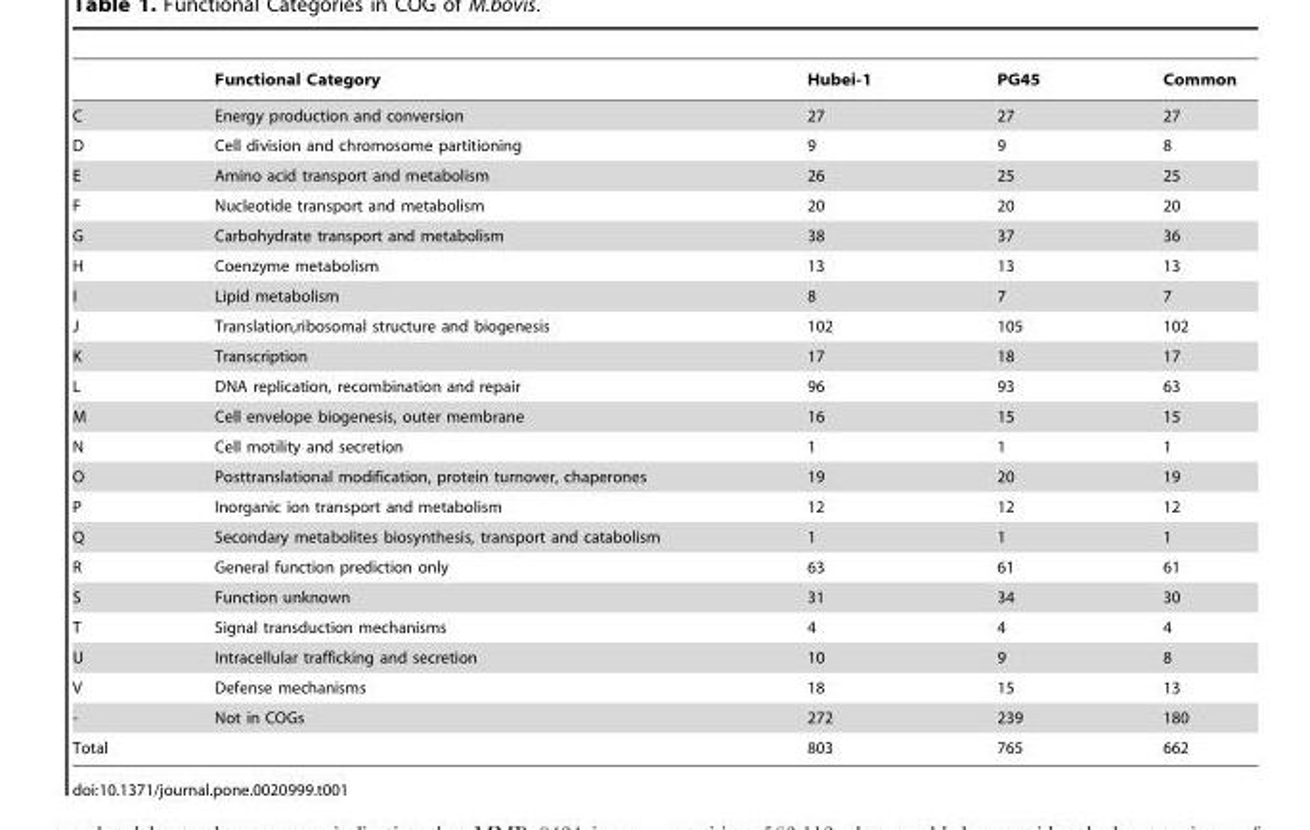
<table><thead><tr><td></td><td>Functional Category</td><td>Hubei-1</td><td>PG45</td><td>Common</td></tr></thead><tbody><tr><td>C</td><td>Energy production and conversion</td><td>27</td><td>27</td><td>27</td></tr><tr><td>D</td><td>Cell division and chromosome partitioning</td><td>9</td><td>9</td><td>8</td></tr><tr><td>E</td><td>Amino acid transport and metabolism</td><td>26</td><td>25</td><td>25</td></tr><tr><td>F</td><td>Nucleotide transport and metabolism</td><td>20</td><td>20</td><td>20</td></tr><tr><td>G</td><td>Carbohydrate transport and metabolism</td><td>38</td><td>37</td><td>36</td></tr><tr><td>H</td><td>Coenzyme metabolism</td><td>13</td><td>13</td><td>13</td></tr><tr><td>I</td><td>Lipid metabolism</td><td>8</td><td>7</td><td>7</td></tr><tr><td>J</td><td>Translation,ribosomal structure and biogenesis</td><td>102</td><td>105</td><td>102</td></tr><tr><td>K</td><td>Transcription</td><td>17</td><td>18</td><td>17</td></tr><tr><td>L</td><td>DNA replication, recombination and repair</td><td>96</td><td>93</td><td>63</td></tr><tr><td>M</td><td>Cell envelope biogenesis, outer membrane</td><td>16</td><td>15</td><td>15</td></tr><tr><td>N</td><td>Cell motility and secretion</td><td>1</td><td>1</td><td>1</td></tr><tr><td>O</td><td>Posttranslational modification, protein turnover, chaperones</td><td>19</td><td>20</td><td>19</td></tr><tr><td>P</td><td>Inorganic ion transport and metabolism</td><td>12</td><td>12</td><td>12</td></tr><tr><td>Q</td><td>Secondary metabolites biosynthesis, transport and catabolism</td><td>1</td><td>1</td><td>1</td></tr><tr><td>R</td><td>General function prediction only</td><td>63</td><td>61</td><td>61</td></tr><tr><td>S</td><td>Function unknown</td><td>31</td><td>34</td><td>30</td></tr><tr><td>T</td><td>Signal transduction mechanisms</td><td>4</td><td>4</td><td>4</td></tr><tr><td>U</td><td>Intracellular trafficking and secretion</td><td>10</td><td>9</td><td>8</td></tr><tr><td>V</td><td>Defense mechanisms</td><td>18</td><td>15</td><td>13</td></tr><tr><td>-</td><td>Not in COGs</td><td>272</td><td>239</td><td>180</td></tr><tr><td>Total</td><td></td><td>803</td><td>765</td><td>662</td></tr></tbody></table>